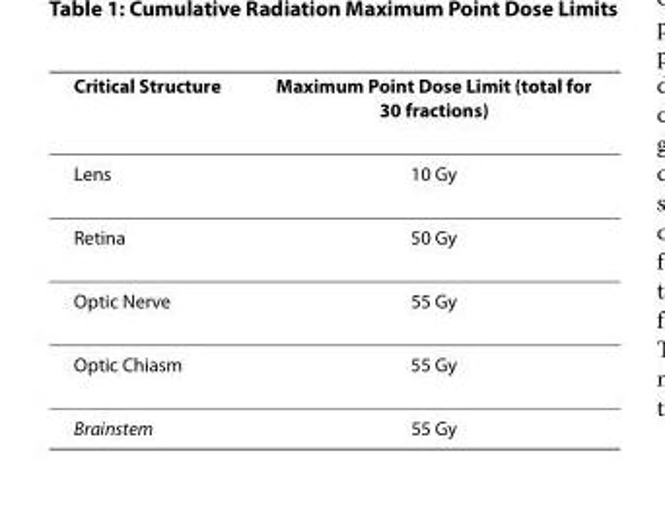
<table><thead><tr><td>Critical Structure</td><td>Maximum Point Dose Limit (total for 30 fractions)</td></tr></thead><tbody><tr><td>Lens</td><td>10 Gy</td></tr><tr><td>Retina</td><td>50 Gy</td></tr><tr><td>Optic Nerve</td><td>55 Gy</td></tr><tr><td>Optic Chiasm</td><td>55 Gy</td></tr><tr><td>Brainstem</td><td>55 Gy</td></tr></tbody></table>